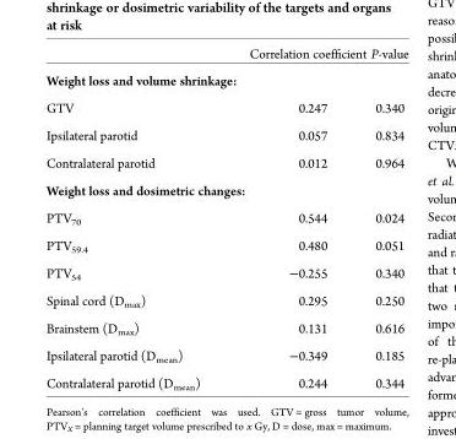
<table><thead><tr><td></td><td>Correlation coefficient</td><td>P-value</td></tr></thead><tbody><tr><td colspan="3">Weight loss and volume shrinkage:</td></tr><tr><td>GTV</td><td>0.247</td><td>0.340</td></tr><tr><td>Ipsilateral parotid</td><td>0.057</td><td>0.834</td></tr><tr><td>Contralateral parotid</td><td>0.012</td><td>0.964</td></tr><tr><td colspan="3">Weight loss and dosimetric changes:</td></tr><tr><td>PTV<sub>70</sub></td><td>0.544</td><td>0.024</td></tr><tr><td>PTV<sub>59.4</sub></td><td>0.480</td><td>0.051</td></tr><tr><td>PTV<sub>54</sub></td><td>−0.255</td><td>0.340</td></tr><tr><td>Spinal cord (D<sub>max</sub>)</td><td>0.295</td><td>0.250</td></tr><tr><td>Brainstem (D<sub>max</sub>)</td><td>0.131</td><td>0.616</td></tr><tr><td>Ipsilateral parotid (D<sub>mean</sub>)</td><td>−0.349</td><td>0.185</td></tr><tr><td>Contralateral parotid (D<sub>mean</sub>)</td><td>0.244</td><td>0.344</td></tr></tbody></table>